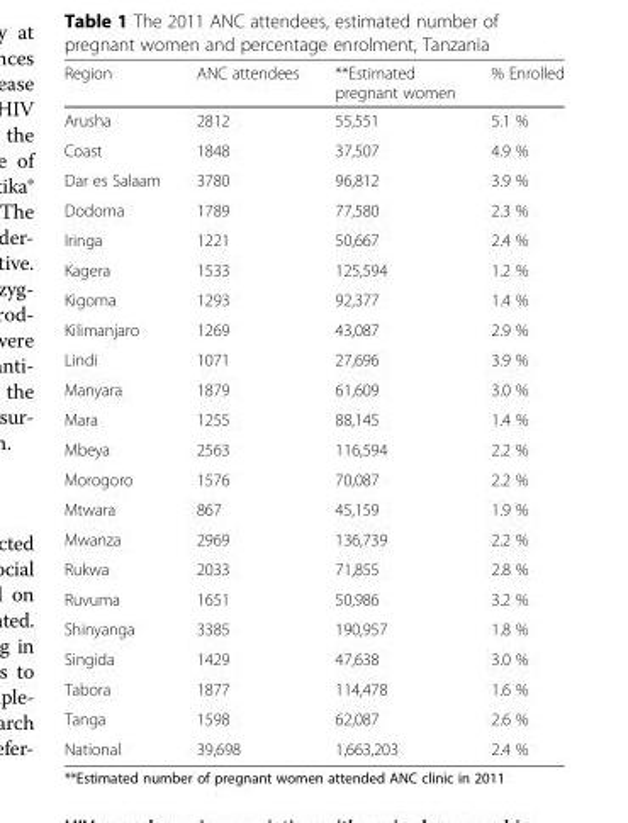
<table><thead><tr><td>Region</td><td>ANC attendees</td><td>**Estimated pregnant women</td><td>% Enrolled</td></tr></thead><tbody><tr><td>Arusha</td><td>2812</td><td>55,551</td><td>5.1 %</td></tr><tr><td>Coast</td><td>1848</td><td>37,507</td><td>4.9 %</td></tr><tr><td>Dar es Salaam</td><td>3780</td><td>96,812</td><td>3.9 %</td></tr><tr><td>Dodoma</td><td>1789</td><td>77,580</td><td>2.3 %</td></tr><tr><td>Iringa</td><td>1221</td><td>50,667</td><td>2.4 %</td></tr><tr><td>Kagera</td><td>1533</td><td>125,594</td><td>1.2 %</td></tr><tr><td>Kigoma</td><td>1293</td><td>92,377</td><td>1.4 %</td></tr><tr><td>Kilimanjaro</td><td>1269</td><td>43,087</td><td>2.9 %</td></tr><tr><td>Lindi</td><td>1071</td><td>27,696</td><td>3.9 %</td></tr><tr><td>Manyara</td><td>1879</td><td>61,609</td><td>3.0 %</td></tr><tr><td>Mara</td><td>1255</td><td>88,145</td><td>1.4 %</td></tr><tr><td>Mbeya</td><td>2563</td><td>116,594</td><td>2.2 %</td></tr><tr><td>Morogoro</td><td>1576</td><td>70,087</td><td>2.2 %</td></tr><tr><td>Mtwara</td><td>867</td><td>45,159</td><td>1.9 %</td></tr><tr><td>Mwanza</td><td>2969</td><td>136,739</td><td>2.2 %</td></tr><tr><td>Rukwa</td><td>2033</td><td>71,855</td><td>2.8 %</td></tr><tr><td>Ruvuma</td><td>1651</td><td>50,986</td><td>3.2 %</td></tr><tr><td>Shinyanga</td><td>3385</td><td>190,957</td><td>1.8 %</td></tr><tr><td>Singida</td><td>1429</td><td>47,638</td><td>3.0 %</td></tr><tr><td>Tabora</td><td>1877</td><td>114,478</td><td>1.6 %</td></tr><tr><td>Tanga</td><td>1598</td><td>62,087</td><td>2.6 %</td></tr><tr><td>National</td><td>39,698</td><td>1,663,203</td><td>2.4 %</td></tr></tbody></table>